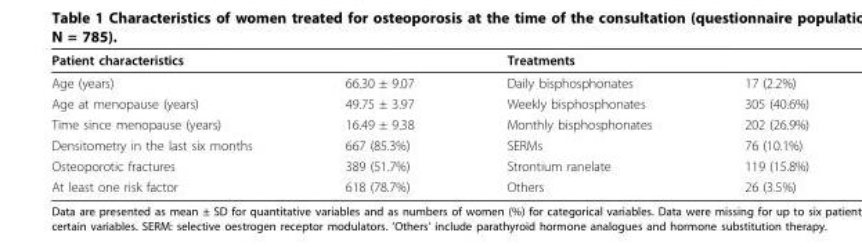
<table><thead><tr><td>Patient characteristics</td><td></td><td>Treatments</td><td></td></tr></thead><tbody><tr><td>Age (years)</td><td>66.30 ± 9.07</td><td>Daily bisphosphonates</td><td>17 (2.2%)</td></tr><tr><td>Age at menopause (years)</td><td>49.75 ± 3.97</td><td>Weekly bisphosphonates</td><td>305 (40.6%)</td></tr><tr><td>Time since menopause (years)</td><td>16.49 ± 9.38</td><td>Monthly bisphosphonates</td><td>202 (26.9%)</td></tr><tr><td>Densitometry in the last six months</td><td>667 (85.3%)</td><td>SERMs</td><td>76 (10.1%)</td></tr><tr><td>Osteoporotic fractures</td><td>389 (51.7%)</td><td>Strontium ranelate</td><td>119 (15.8%)</td></tr><tr><td>At least one risk factor</td><td>618 (78.7%)</td><td>Others</td><td>26 (3.5%)</td></tr></tbody></table>